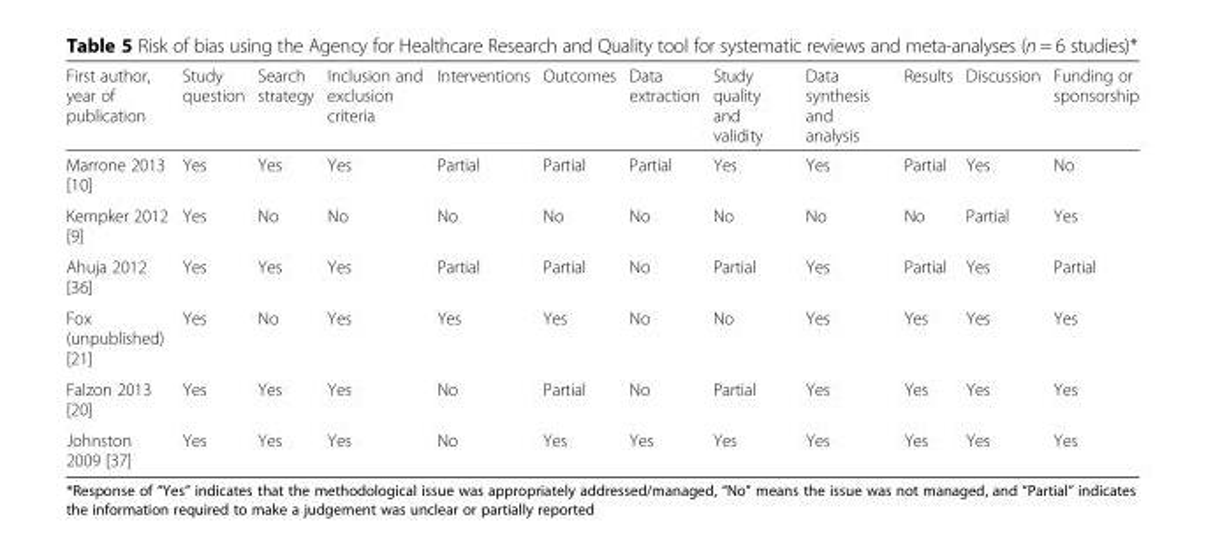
<table><thead><tr><td>First author, year of publication</td><td>Study question</td><td>Search strategy</td><td>Inclusion and exclusion criteria</td><td>Interventions</td><td>Outcomes</td><td>Data extraction</td><td>Study quality and validity</td><td>Data synthesis and analysis</td><td>Results</td><td>Discussion</td><td>Funding or sponsorship</td></tr></thead><tbody><tr><td>Marrone 2013 [10]</td><td>Yes</td><td>Yes</td><td>Yes</td><td>Partial</td><td>Partial</td><td>Partial</td><td>Yes</td><td>Yes</td><td>Partial</td><td>Yes</td><td>No</td></tr><tr><td>Kempker 2012 [9]</td><td>Yes</td><td>No</td><td>No</td><td>No</td><td>No</td><td>No</td><td>No</td><td>No</td><td>No</td><td>Partial</td><td>Yes</td></tr><tr><td>Ahuja 2012 [36]</td><td>Yes</td><td>Yes</td><td>Yes</td><td>Partial</td><td>Partial</td><td>No</td><td>Partial</td><td>Yes</td><td>Partial</td><td>Yes</td><td>Partial</td></tr><tr><td>Fox (unpublished) [21]</td><td>Yes</td><td>No</td><td>Yes</td><td>Yes</td><td>Yes</td><td>No</td><td>No</td><td>Yes</td><td>Yes</td><td>Yes</td><td>Yes</td></tr><tr><td>Falzon 2013 [20]</td><td>Yes</td><td>Yes</td><td>Yes</td><td>No</td><td>Partial</td><td>No</td><td>Partial</td><td>Yes</td><td>Yes</td><td>Yes</td><td>Yes</td></tr><tr><td>Johnston 2009 [37]</td><td>Yes</td><td>Yes</td><td>Yes</td><td>No</td><td>Yes</td><td>Yes</td><td>Yes</td><td>Yes</td><td>Yes</td><td>Yes</td><td>Yes</td></tr></tbody></table>